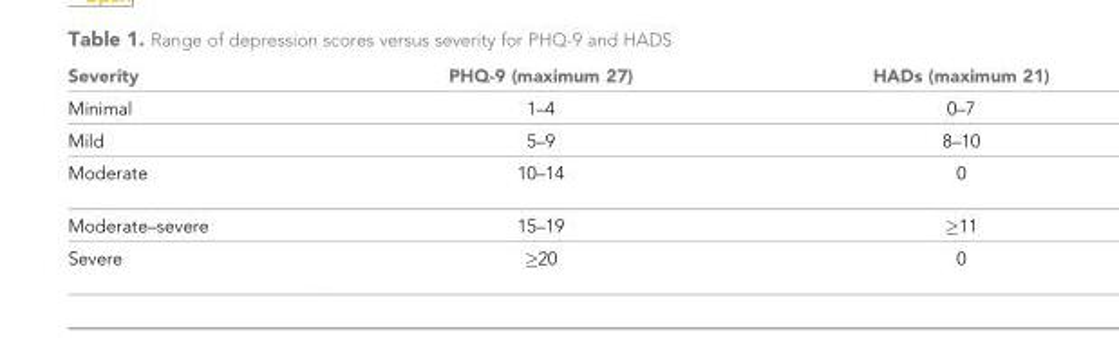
<table><thead><tr><td>Severity</td><td>PHQ-9 (maximum 27)</td><td>HADs (maximum 21)</td></tr></thead><tbody><tr><td>Minimal</td><td>1–4</td><td>0–7</td></tr><tr><td>Mild</td><td>5–9</td><td>8–10</td></tr><tr><td>Moderate</td><td>10–14</td><td>0</td></tr><tr><td>Moderate–severe</td><td>15–19</td><td>≥11</td></tr><tr><td>Severe</td><td>≥20</td><td>0</td></tr></tbody></table>